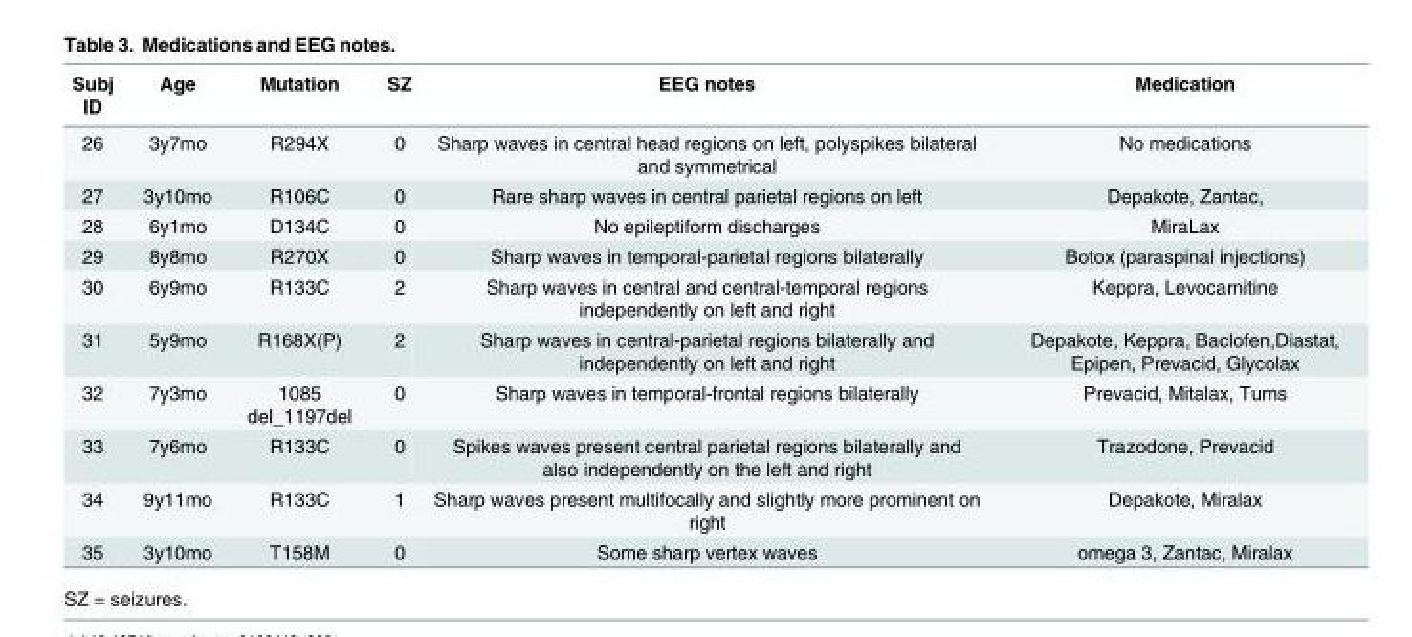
<table><thead><tr><td>Subj ID</td><td>Age</td><td>Mutation</td><td>SZ</td><td>EEG notes</td><td>Medication</td></tr></thead><tbody><tr><td>26</td><td>3y7mo</td><td>R294X</td><td>0</td><td>Sharp waves in central head regions on left, polyspikes bilateral and symmetrical</td><td>No medications</td></tr><tr><td>27</td><td>3y10mo</td><td>R106C</td><td>0</td><td>Rare sharp waves in central parietal regions on left</td><td>Depakote, Zantac,</td></tr><tr><td>28</td><td>6y1mo</td><td>D134C</td><td>0</td><td>No epileptiform discharges</td><td>MiraLax</td></tr><tr><td>29</td><td>8y8mo</td><td>R270X</td><td>0</td><td>Sharp waves in temporal-parietal regions bilaterally</td><td>Botox (paraspinal injections)</td></tr><tr><td>30</td><td>6y9mo</td><td>R133C</td><td>2</td><td>Sharp waves in central and central-temporal regions independently on left and right</td><td>Keppra, Levocarnitine</td></tr><tr><td>31</td><td>5y9mo</td><td>R168X(P)</td><td>2</td><td>Sharp waves in central-parietal regions bilaterally and independently on left and right</td><td>Depakote, Keppra, Baclofen,Diastat, Epipen, Prevacid, Glycolax</td></tr><tr><td>32</td><td>7y3mo</td><td>1085 del_1197del</td><td>0</td><td>Sharp waves in temporal-frontal regions bilaterally</td><td>Prevacid, Mitalax, Tums</td></tr><tr><td>33</td><td>7y6mo</td><td>R133C</td><td>0</td><td>Spikes waves present central parietal regions bilaterally and also independently on the left and right</td><td>Trazodone, Prevacid</td></tr><tr><td>34</td><td>9y11mo</td><td>R133C</td><td>1</td><td>Sharp waves present multifocally and slightly more prominent on right</td><td>Depakote, Miralax</td></tr><tr><td>35</td><td>3y10mo</td><td>T158M</td><td>0</td><td>Some sharp vertex waves</td><td>omega 3, Zantac, Miralax</td></tr></tbody></table>